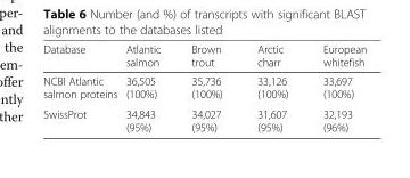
<table><thead><tr><td>Database</td><td>Atlantic salmon</td><td>Brown trout</td><td>Arctic charr</td><td>European whitefish</td></tr></thead><tbody><tr><td>NCBI Atlantic salmon proteins</td><td>36,505 (100%)</td><td>35,736 (100%)</td><td>33,126 (100%)</td><td>33,697 (100%)</td></tr><tr><td>SwissProt</td><td>34,843 (95%)</td><td>34,027 (95%)</td><td>31,607 (95%)</td><td>32,193 (96%)</td></tr></tbody></table>